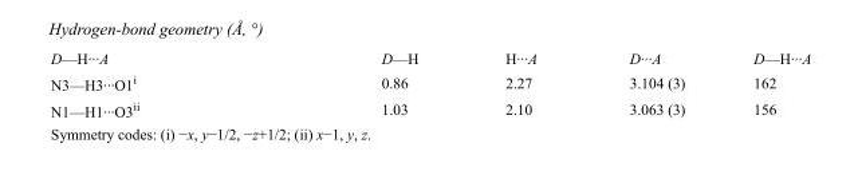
<table><tbody><tr><td>D—H···A</td><td>D—H</td><td>H···A</td><td>D···A</td><td>D—H···A</td></tr><tr><td>N3—H3···O1<sup>i</sup></td><td>0.86</td><td>2.27</td><td>3.104 (3)</td><td>162</td></tr><tr><td>N1—H1···O3<sup>ii</sup></td><td>1.03</td><td>2.10</td><td>3.063 (3)</td><td>156</td></tr></tbody></table>